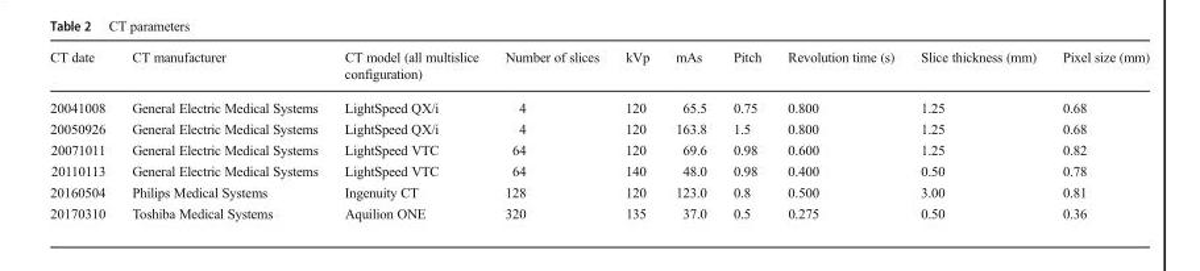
<table><thead><tr><td>CT date</td><td>CT manufacturer</td><td>CT model (all multislice configuration)</td><td>Number of slices</td><td>kVp</td><td>mAs</td><td>Pitch</td><td>Revolution time (s)</td><td>Slice thickness (mm)</td><td>Pixel size (mm)</td></tr></thead><tbody><tr><td>20041008</td><td>General Electric Medical Systems</td><td>LightSpeed QX/i</td><td>4</td><td>120</td><td>65.5</td><td>0.75</td><td>0.800</td><td>1.25</td><td>0.68</td></tr><tr><td>20050926</td><td>General Electric Medical Systems</td><td>LightSpeed QX/i</td><td>4</td><td>120</td><td>163.8</td><td>1.5</td><td>0.800</td><td>1.25</td><td>0.68</td></tr><tr><td>20071011</td><td>General Electric Medical Systems</td><td>LightSpeed VTC</td><td>64</td><td>120</td><td>69.6</td><td>0.98</td><td>0.600</td><td>1.25</td><td>0.82</td></tr><tr><td>20110113</td><td>General Electric Medical Systems</td><td>LightSpeed VTC</td><td>64</td><td>140</td><td>48.0</td><td>0.98</td><td>0.400</td><td>0.50</td><td>0.78</td></tr><tr><td>20160504</td><td>Philips Medical Systems</td><td>Ingenuity CT</td><td>128</td><td>120</td><td>123.0</td><td>0.8</td><td>0.500</td><td>3.00</td><td>0.81</td></tr><tr><td>20170310</td><td>Toshiba Medical Systems</td><td>Aquilion ONE</td><td>320</td><td>135</td><td>37.0</td><td>0.5</td><td>0.275</td><td>0.50</td><td>0.36</td></tr></tbody></table>